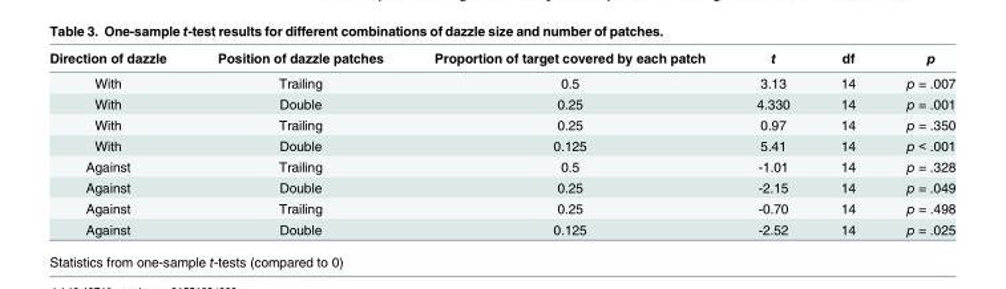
<table><thead><tr><td>Direction of dazzle</td><td>Position of dazzle patches</td><td>Proportion of target covered by each patch</td><td>t</td><td>df</td><td>p</td></tr></thead><tbody><tr><td>With</td><td>Trailing</td><td>0.5</td><td>3.13</td><td>14</td><td>p = .007</td></tr><tr><td>With</td><td>Double</td><td>0.25</td><td>4.330</td><td>14</td><td>p = .001</td></tr><tr><td>With</td><td>Trailing</td><td>0.25</td><td>0.97</td><td>14</td><td>p = .350</td></tr><tr><td>With</td><td>Double</td><td>0.125</td><td>5.41</td><td>14</td><td>p &lt; .001</td></tr><tr><td>Against</td><td>Trailing</td><td>0.5</td><td>-1.01</td><td>14</td><td>p = .328</td></tr><tr><td>Against</td><td>Double</td><td>0.25</td><td>-2.15</td><td>14</td><td>p = .049</td></tr><tr><td>Against</td><td>Trailing</td><td>0.25</td><td>-0.70</td><td>14</td><td>p = .498</td></tr><tr><td>Against</td><td>Double</td><td>0.125</td><td>-2.52</td><td>14</td><td>p = .025</td></tr></tbody></table>